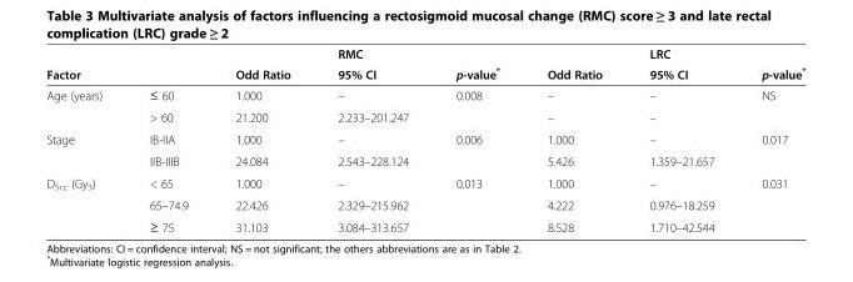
<table><thead><tr><td rowspan="2">Factor</td><td rowspan="2"></td><td rowspan="2">Odd Ratio</td><td rowspan="2">RMC 95% CI</td><td rowspan="2">p-value*</td><td rowspan="2">Odd Ratio</td><td rowspan="2">LRC 95% CI</td><td rowspan="2">p-value*</td></tr><tr></tr></thead><tbody><tr><td rowspan="2">Age (years)</td><td>≤ 60</td><td>1.000</td><td>–</td><td>0.008</td><td>–</td><td>–</td><td>NS</td></tr><tr><td>&gt; 60</td><td>21.200</td><td>2.233–201.247</td><td></td><td>–</td><td>–</td><td></td></tr><tr><td rowspan="2">Stage</td><td>IB-IIA</td><td>1.000</td><td>–</td><td>0.006</td><td>1.000</td><td>–</td><td>0.017</td></tr><tr><td>IIB-IIIB</td><td>24.084</td><td>2.543–228.124</td><td></td><td>5.426</td><td>1.359–21.657</td><td></td></tr><tr><td rowspan="3">D<sub>5cc</sub> (Gy<sub>3</sub>)</td><td>&lt; 65</td><td>1.000</td><td>–</td><td>0.013</td><td>1.000</td><td>–</td><td>0.031</td></tr><tr><td>65–74.9</td><td>22.426</td><td>2.329–215.962</td><td></td><td>4.222</td><td>0.976–18.259</td><td></td></tr><tr><td>≥ 75</td><td>31.103</td><td>3.084–313.657</td><td></td><td>8.528</td><td>1.710–42.544</td><td></td></tr></tbody></table>